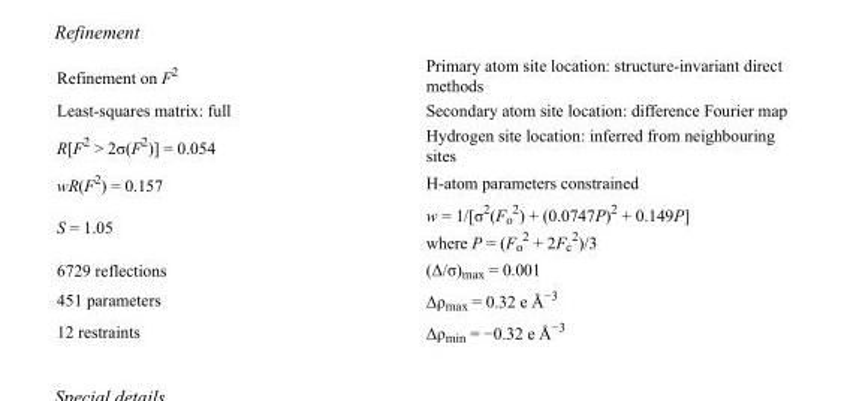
<table><tbody><tr><td>Refinement on F<sup>2</sup></td><td>Primary atom site location: structure-invariant direct methods</td></tr><tr><td>Least-squares matrix: full</td><td>Secondary atom site location: difference Fourier map</td></tr><tr><td>R[F<sup>2</sup> &gt; 2σ(F<sup>2</sup>)] = 0.054</td><td>Hydrogen site location: inferred from neighbouring sites</td></tr><tr><td>wR(F<sup>2</sup>) = 0.157</td><td>H-atom parameters constrained</td></tr><tr><td>S = 1.05</td><td>w = 1/[σ<sup>2</sup>(F<sub>o</sub> <sup>2</sup>) + (0.0747P)<sup>2</sup> + 0.149P] where P = (F<sub>o</sub> <sup>2</sup> + 2F<sub>c</sub> <sup>2</sup>)/3</td></tr><tr><td>6729 reflections</td><td>(Δ/σ)<sub>max</sub> = 0.001</td></tr><tr><td>451 parameters</td><td>Δρ<sub>max</sub> = 0.32 e Å<sup>−3</sup></td></tr><tr><td>12 restraints</td><td>Δρ<sub>min</sub> = −0.32 e Å<sup>−3</sup></td></tr></tbody></table>